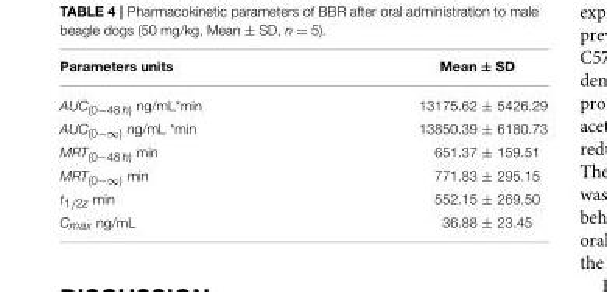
<table><thead><tr><td>Parameters units</td><td>Mean ± SD</td></tr></thead><tbody><tr><td>AUC(0−48 h) ng/mL*min</td><td>13175.62 ± 5426.29</td></tr><tr><td>AUC<sub>(0−∞)</sub> ng/mL *min</td><td>13850.39 ± 6180.73</td></tr><tr><td>MRT<sub>(0−48 h)</sub> min</td><td>651.37 ± 159.51</td></tr><tr><td>MRT<sub>(0−∞)</sub> min</td><td>771.83 ± 295.15</td></tr><tr><td>t<sub>1/2z</sub> min</td><td>552.15 ± 269.50</td></tr><tr><td>Cmax ng/mL</td><td>36.88 ± 23.45</td></tr></tbody></table>